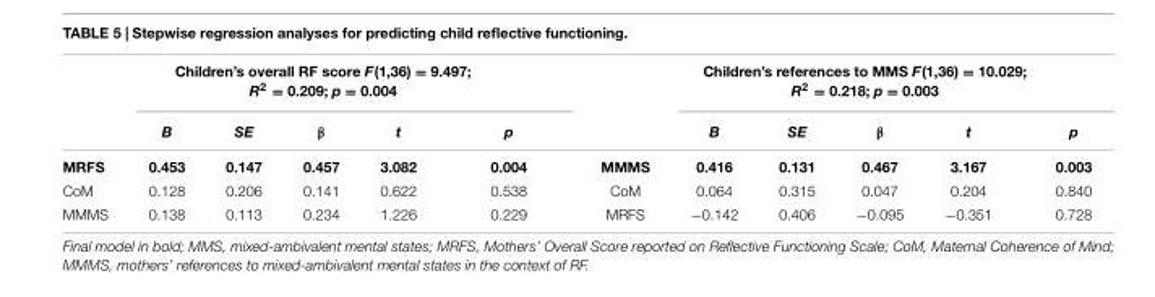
<table><thead><tr><td rowspan="2"></td><td colspan="5">Children’s overall RF score F(1,36) = 9.497; R<sup>2</sup> = 0.209; p = 0.004</td><td rowspan="2"></td><td colspan="5">Children’s references to MMS F(1,36) = 10.029; R<sup>2</sup> = 0.218; p = 0.003</td></tr><tr><td>B</td><td>SE</td><td>β</td><td>t</td><td>p</td><td>B</td><td>SE</td><td>β</td><td>t</td><td>p</td></tr></thead><tbody><tr><td>MRFS</td><td>0.453</td><td>0.147</td><td>0.457</td><td>3.082</td><td>0.004</td><td>MMMS</td><td>0.416</td><td>0.131</td><td>0.467</td><td>3.167</td><td>0.003</td></tr><tr><td>CoM</td><td>0.128</td><td>0.206</td><td>0.141</td><td>0.622</td><td>0.538</td><td>CoM</td><td>0.064</td><td>0.315</td><td>0.047</td><td>0.204</td><td>0.840</td></tr><tr><td>MMMS</td><td>0.138</td><td>0.113</td><td>0.234</td><td>1.226</td><td>0.229</td><td>MRFS</td><td>−0.142</td><td>0.406</td><td>−0.095</td><td>−0.351</td><td>0.728</td></tr></tbody></table>